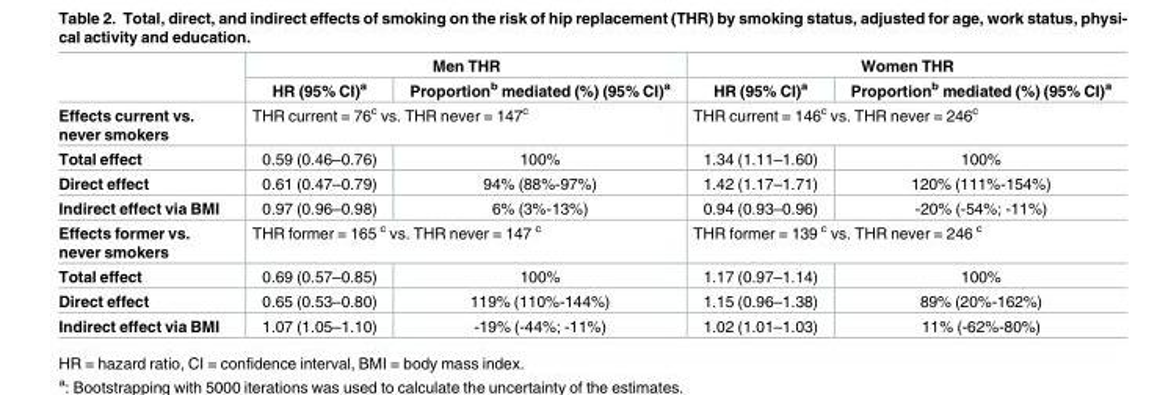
<table><thead><tr><td rowspan="2"></td><td colspan="2">Men THR</td><td colspan="2">Women THR</td></tr><tr><td>HR (95% CI)<sup>a</sup></td><td>Proportion<sup>b</sup> mediated (%) (95% CI)<sup>a</sup></td><td>HR (95% CI)<sup>a</sup></td><td>Proportion<sup>b</sup> mediated (%) (95% CI)<sup>a</sup></td></tr></thead><tbody><tr><td>Effects current vs. never smokers</td><td colspan="2">THR current = 76<sup>c</sup> vs. THR never = 147<sup>c</sup></td><td colspan="2">THR current = 146<sup>c</sup> vs. THR never = 246<sup>c</sup></td></tr><tr><td>Total effect</td><td>0.59 (0.46–0.76)</td><td>100%</td><td>1.34 (1.11–1.60)</td><td>100%</td></tr><tr><td>Direct effect</td><td>0.61 (0.47–0.79)</td><td>94% (88%-97%)</td><td>1.42 (1.17–1.71)</td><td>120% (111%-154%)</td></tr><tr><td>Indirect effect via BMI</td><td>0.97 (0.96–0.98)</td><td>6% (3%-13%)</td><td>0.94 (0.93–0.96)</td><td>-20% (-54%; -11%)</td></tr><tr><td>Effects former vs. never smokers</td><td colspan="2">THR former = 165 <sup>c</sup> vs. THR never = 147 <sup>c</sup></td><td colspan="2">THR former = 139 <sup>c</sup> vs. THR never = 246 <sup>c</sup></td></tr><tr><td>Total effect</td><td>0.69 (0.57–0.85)</td><td>100%</td><td>1.17 (0.97–1.14)</td><td>100%</td></tr><tr><td>Direct effect</td><td>0.65 (0.53–0.80)</td><td>119% (110%-144%)</td><td>1.15 (0.96–1.38)</td><td>89% (20%-162%)</td></tr><tr><td>Indirect effect via BMI</td><td>1.07 (1.05–1.10)</td><td>-19% (-44%; -11%)</td><td>1.02 (1.01–1.03)</td><td>11% (-62%-80%)</td></tr></tbody></table>